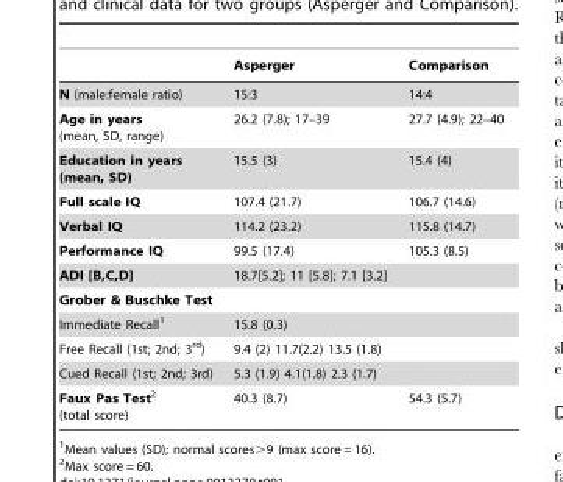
<table><thead><tr><td></td><td>Asperger</td><td>Comparison</td></tr></thead><tbody><tr><td>N (male:female ratio)</td><td>15:3</td><td>14:4</td></tr><tr><td>Age in years (mean, SD, range)</td><td>26.2 (7.8); 17–39</td><td>27.7 (4.9); 22–40</td></tr><tr><td>Education in years (mean, SD)</td><td>15.5 (3)</td><td>15.4 (4)</td></tr><tr><td>Full scale IQ</td><td>107.4 (21.7)</td><td>106.7 (14.6)</td></tr><tr><td>Verbal IQ</td><td>114.2 (23.2)</td><td>115.8 (14.7)</td></tr><tr><td>Performance IQ</td><td>99.5 (17.4)</td><td>105.3 (8.5)</td></tr><tr><td>ADI [B,C,D]</td><td>18.7[5.2]; 11 [5.8]; 7.1 [3.2]</td><td></td></tr><tr><td colspan="3">Grober &amp; Buschke Test</td></tr><tr><td>Immediate Recall<sup>1</sup></td><td>15.8 (0.3)</td><td></td></tr><tr><td>Free Recall (1st; 2nd; 3<sup>rd</sup>)</td><td>9.4 (2) 11.7(2.2) 13.5 (1.8)</td><td></td></tr><tr><td>Cued Recall (1st; 2nd; 3rd)</td><td>5.3 (1.9) 4.1(1.8) 2.3 (1.7)</td><td></td></tr><tr><td>Faux Pas Test2 (total score)</td><td>40.3 (8.7)</td><td>54.3 (5.7)</td></tr></tbody></table>